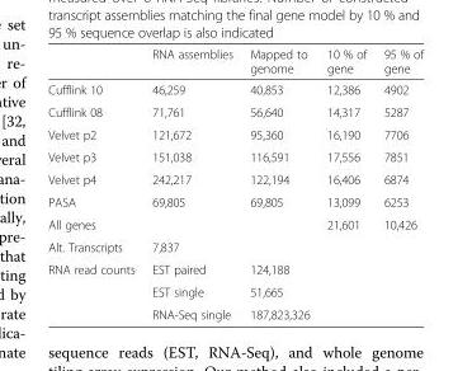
<table><thead><tr><td></td><td>RNA assemblies</td><td>Mapped to genome</td><td>10 % of gene</td><td>95 % of gene</td></tr></thead><tbody><tr><td>Cufflink 10</td><td>46,259</td><td>40,853</td><td>12,386</td><td>4902</td></tr><tr><td>Cufflink 08</td><td>71,761</td><td>56,640</td><td>14,317</td><td>5287</td></tr><tr><td>Velvet p2</td><td>121,672</td><td>95,360</td><td>16,190</td><td>7706</td></tr><tr><td>Velvet p3</td><td>151,038</td><td>116,591</td><td>17,556</td><td>7851</td></tr><tr><td>Velvet p4</td><td>242,217</td><td>122,194</td><td>16,406</td><td>6874</td></tr><tr><td>PASA</td><td>69,805</td><td>69,805</td><td>13,099</td><td>6253</td></tr><tr><td>All genes</td><td></td><td></td><td>21,601</td><td>10,426</td></tr><tr><td>Alt. Transcripts</td><td>7,837</td><td></td><td></td><td></td></tr><tr><td rowspan="3">RNA read counts</td><td>EST paired</td><td>124,188</td><td></td><td></td></tr><tr><td>EST single</td><td>51,665</td><td></td><td></td></tr><tr><td>RNA-Seq single</td><td>187,823,326</td><td></td><td></td></tr></tbody></table>